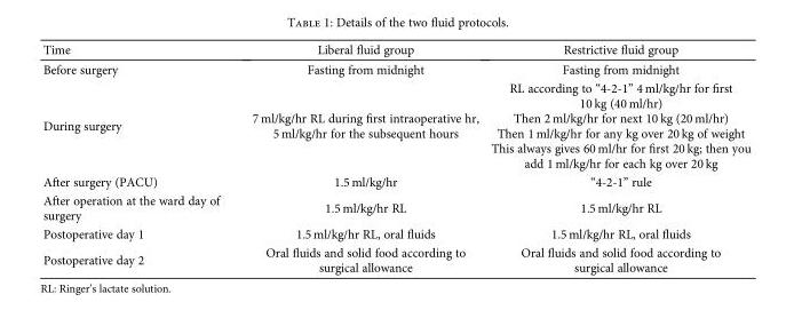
<table><thead><tr><td>Time</td><td>Liberal fluid group</td><td>Restrictive fluid group</td></tr></thead><tbody><tr><td>Before surgery</td><td>Fasting from midnight</td><td>Fasting from midnight</td></tr><tr><td>During surgery</td><td>7 ml/kg/hr RL during first intraoperative hr, 5 ml/kg/hr for the subsequent hours</td><td>RL according to “4-2-1” 4 ml/kg/hr for first 10 kg (40 ml/hr) Then 2 ml/kg/hr for next 10 kg (20 ml/hr) Then 1 ml/kg/hr for any kg over 20 kg of weight This always gives 60 ml/hr for first 20 kg; then you add 1 ml/kg/hr for each kg over 20 kg</td></tr><tr><td>After surgery (PACU)</td><td>1.5 ml/kg/hr</td><td>“4-2-1” rule</td></tr><tr><td>After operation at the ward day of surgery</td><td>1.5 ml/kg/hr RL</td><td>1.5 ml/kg/hr RL</td></tr><tr><td>Postoperative day 1</td><td>1.5 ml/kg/hr RL, oral fluids</td><td>1.5 ml/kg/hr RL, oral fluids</td></tr><tr><td>Postoperative day 2</td><td>Oral fluids and solid food according to surgical allowance</td><td>Oral fluids and solid food according to surgical allowance</td></tr></tbody></table>